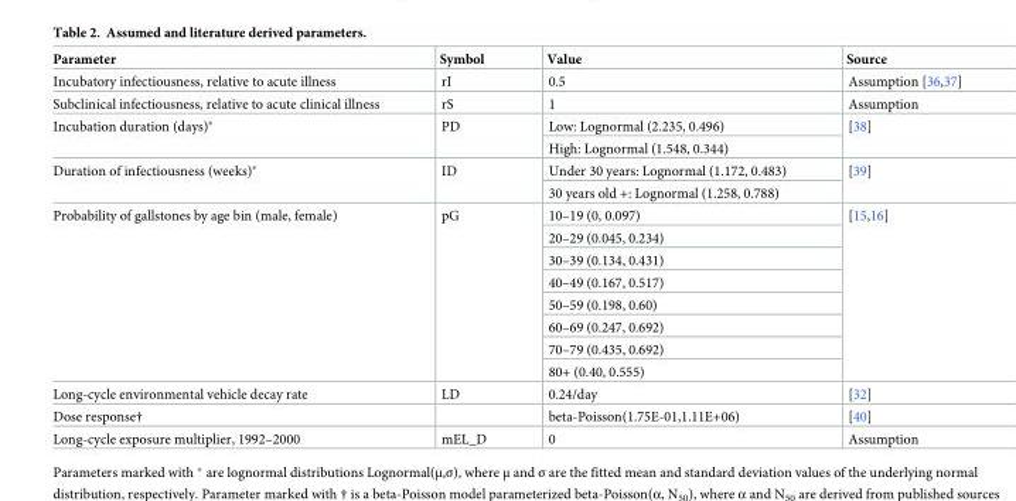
<table><thead><tr><td>Parameter</td><td>Symbol</td><td>Value</td><td>Source</td></tr></thead><tbody><tr><td>Incubatory infectiousness, relative to acute illness</td><td>rI</td><td>0.5</td><td>Assumption [36,37]</td></tr><tr><td>Subclinical infectiousness, relative to acute clinical illness</td><td>rS</td><td>1</td><td>Assumption</td></tr><tr><td rowspan="2">Incubation duration (days)*</td><td rowspan="2">PD</td><td>Low: Lognormal (2.235, 0.496)</td><td rowspan="2">[38]</td></tr><tr><td>High: Lognormal (1.548, 0.344)</td></tr><tr><td rowspan="2">Duration of infectiousness (weeks)*</td><td rowspan="2">ID</td><td>Under 30 years: Lognormal (1.172, 0.483)</td><td rowspan="2">[39]</td></tr><tr><td>30 years old +: Lognormal (1.258, 0.788)</td></tr><tr><td rowspan="8">Probability of gallstones by age bin (male, female)</td><td rowspan="8">pG</td><td>10–19 (0, 0.097)</td><td rowspan="8">[15,16]</td></tr><tr><td>20–29 (0.045, 0.234)</td></tr><tr><td>30–39 (0.134, 0.431)</td></tr><tr><td>40–49 (0.167, 0.517)</td></tr><tr><td>50–59 (0.198, 0.60)</td></tr><tr><td>60–69 (0.247, 0.692)</td></tr><tr><td>70–79 (0.435, 0.692)</td></tr><tr><td>80+ (0.40, 0.555)</td></tr><tr><td>Long-cycle environmental vehicle decay rate</td><td>LD</td><td>0.24/day</td><td>[32]</td></tr><tr><td>Dose response†</td><td></td><td>beta-Poisson(1.75E-01,1.11E+06)</td><td>[40]</td></tr><tr><td>Long-cycle exposure multiplier, 1992–2000</td><td>mEL_D</td><td>0</td><td>Assumption</td></tr></tbody></table>